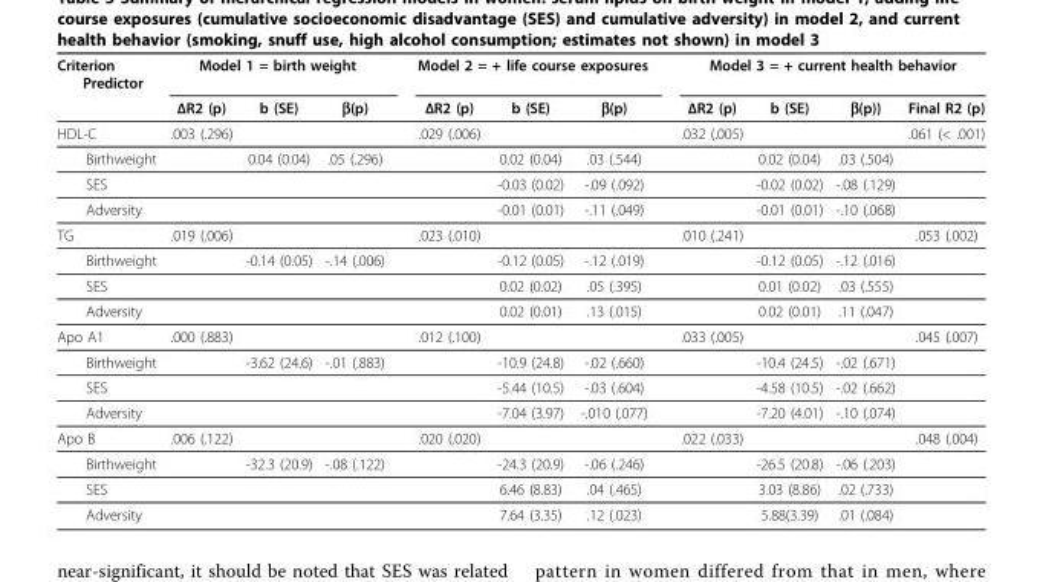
<table><thead><tr><td rowspan="2">Criterion Predictor</td><td colspan="3">Model 1 = birth weight</td><td colspan="3">Model 2 = + life course exposures</td><td colspan="4">Model 3 = + current health behavior</td></tr><tr><td>ΔR2 (p)</td><td>b (SE)</td><td>β(p)</td><td>ΔR2 (p)</td><td>b (SE)</td><td>β(p)</td><td>ΔR2 (p)</td><td>b (SE)</td><td>β(p))</td><td>Final R2 (p)</td></tr></thead><tbody><tr><td>HDL-C</td><td>.003 (.296)</td><td></td><td></td><td>.029 (.006)</td><td></td><td></td><td>.032 (.005)</td><td></td><td></td><td>.061 (&lt; .001)</td></tr><tr><td>Birthweight</td><td></td><td>0.04 (0.04)</td><td>.05 (.296)</td><td></td><td>0.02 (0.04)</td><td>.03 (.544)</td><td></td><td>0.02 (0.04)</td><td>.03 (.504)</td><td></td></tr><tr><td>SES</td><td></td><td></td><td></td><td></td><td>-0.03 (0.02)</td><td>-.09 (.092)</td><td></td><td>-0.02 (0.02)</td><td>-.08 (.129)</td><td></td></tr><tr><td>Adversity</td><td></td><td></td><td></td><td></td><td>-0.01 (0.01)</td><td>-.11 (.049)</td><td></td><td>-0.01 (0.01)</td><td>-.10 (.068)</td><td></td></tr><tr><td>TG</td><td>.019 (.006)</td><td></td><td></td><td>.023 (.010)</td><td></td><td></td><td>.010 (.241)</td><td></td><td></td><td>.053 (.002)</td></tr><tr><td>Birthweight</td><td></td><td>-0.14 (0.05)</td><td>-.14 (.006)</td><td></td><td>-0.12 (0.05)</td><td>-.12 (.019)</td><td></td><td>-0.12 (0.05)</td><td>-.12 (.016)</td><td></td></tr><tr><td>SES</td><td></td><td></td><td></td><td></td><td>0.02 (0.02)</td><td>.05 (.395)</td><td></td><td>0.01 (0.02)</td><td>.03 (.555)</td><td></td></tr><tr><td>Adversity</td><td></td><td></td><td></td><td></td><td>0.02 (0.01)</td><td>.13 (.015)</td><td></td><td>0.02 (0.01)</td><td>.11 (.047)</td><td></td></tr><tr><td>Apo A1</td><td>.000 (.883)</td><td></td><td></td><td>.012 (.100)</td><td></td><td></td><td>.033 (.005)</td><td></td><td></td><td>.045 (.007)</td></tr><tr><td>Birthweight</td><td></td><td>-3.62 (24.6)</td><td>-.01 (.883)</td><td></td><td>-10.9 (24.8)</td><td>-.02 (.660)</td><td></td><td>-10.4 (24.5)</td><td>-.02 (.671)</td><td></td></tr><tr><td>SES</td><td></td><td></td><td></td><td></td><td>-5.44 (10.5)</td><td>-.03 (.604)</td><td></td><td>-4.58 (10.5)</td><td>-.02 (.662)</td><td></td></tr><tr><td>Adversity</td><td></td><td></td><td></td><td></td><td>-7.04 (3.97)</td><td>-.010 (.077)</td><td></td><td>-7.20 (4.01)</td><td>-.10 (.074)</td><td></td></tr><tr><td>Apo B</td><td>.006 (.122)</td><td></td><td></td><td>.020 (.020)</td><td></td><td></td><td>.022 (.033)</td><td></td><td></td><td>.048 (.004)</td></tr><tr><td>Birthweight</td><td></td><td>-32.3 (20.9)</td><td>-.08 (.122)</td><td></td><td>-24.3 (20.9)</td><td>-.06 (.246)</td><td></td><td>-26.5 (20.8)</td><td>-.06 (.203)</td><td></td></tr><tr><td>SES</td><td></td><td></td><td></td><td></td><td>6.46 (8.83)</td><td>.04 (.465)</td><td></td><td>3.03 (8.86)</td><td>.02 (.733)</td><td></td></tr><tr><td>Adversity</td><td></td><td></td><td></td><td></td><td>7.64 (3.35)</td><td>.12 (.023)</td><td></td><td>5.88(3.39)</td><td>.01 (.084)</td><td></td></tr></tbody></table>